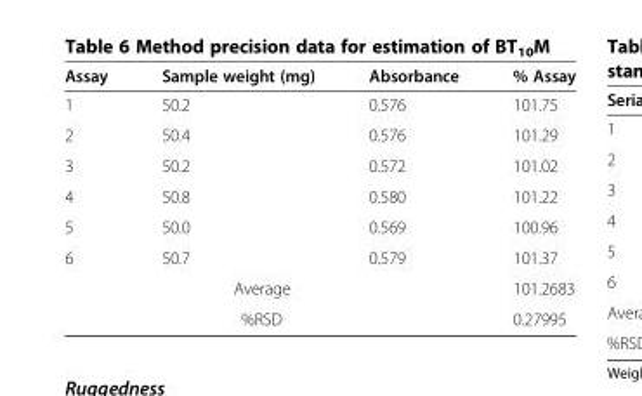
<table><thead><tr><td>Assay</td><td>Sample weight (mg)</td><td>Absorbance</td><td>% Assay</td></tr></thead><tbody><tr><td>1</td><td>50.2</td><td>0.576</td><td>101.75</td></tr><tr><td>2</td><td>50.4</td><td>0.576</td><td>101.29</td></tr><tr><td>3</td><td>50.2</td><td>0.572</td><td>101.02</td></tr><tr><td>4</td><td>50.8</td><td>0.580</td><td>101.22</td></tr><tr><td>5</td><td>50.0</td><td>0.569</td><td>100.96</td></tr><tr><td>6</td><td>50.7</td><td>0.579</td><td>101.37</td></tr><tr><td colspan="3">Average</td><td>101.2683</td></tr><tr><td colspan="3">%RSD</td><td>0.27995</td></tr></tbody></table>